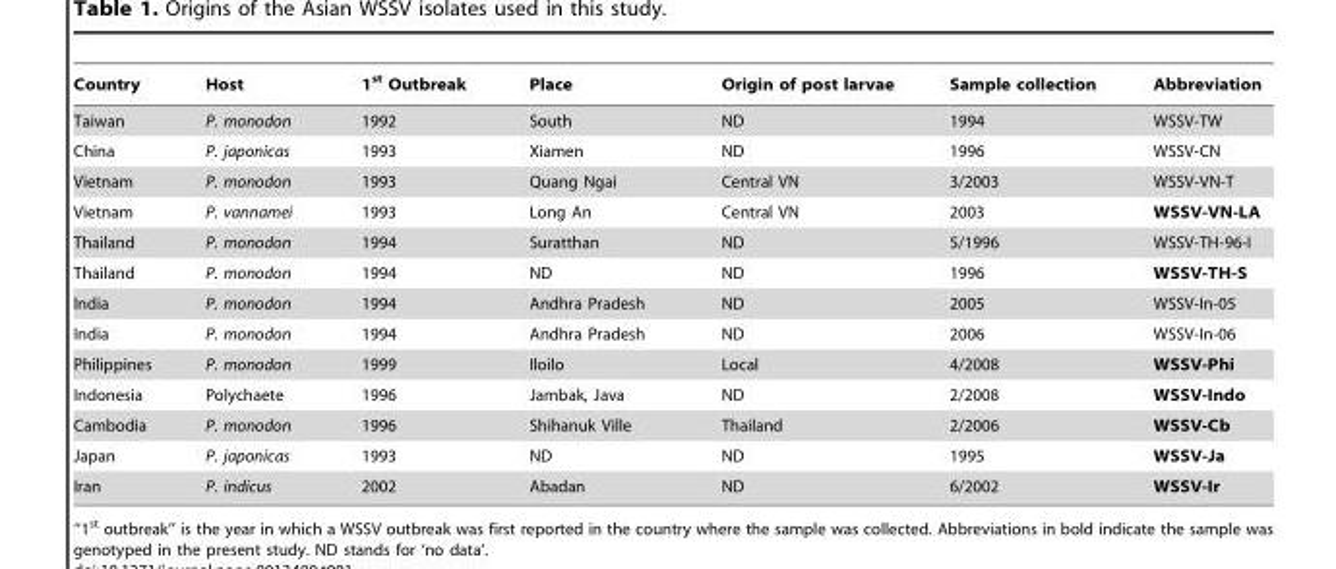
<table><thead><tr><td>Country</td><td>Host</td><td>1<sup>st</sup> Outbreak</td><td>Place</td><td>Origin of post larvae</td><td>Sample collection</td><td>Abbreviation</td></tr></thead><tbody><tr><td>Taiwan</td><td>P. monodon</td><td>1992</td><td>South</td><td>ND</td><td>1994</td><td>WSSV-TW</td></tr><tr><td>China</td><td>P. japonicas</td><td>1993</td><td>Xiamen</td><td>ND</td><td>1996</td><td>WSSV-CN</td></tr><tr><td>Vietnam</td><td>P. monodon</td><td>1993</td><td>Quang Ngai</td><td>Central VN</td><td>3/2003</td><td>WSSV-VN-T</td></tr><tr><td>Vietnam</td><td>P. vannamei</td><td>1993</td><td>Long An</td><td>Central VN</td><td>2003</td><td>WSSV-VN-LA</td></tr><tr><td>Thailand</td><td>P. monodon</td><td>1994</td><td>Suratthan</td><td>ND</td><td>5/1996</td><td>WSSV-TH-96-I</td></tr><tr><td>Thailand</td><td>P. monodon</td><td>1994</td><td>ND</td><td>ND</td><td>1996</td><td>WSSV-TH-S</td></tr><tr><td>India</td><td>P. monodon</td><td>1994</td><td>Andhra Pradesh</td><td>ND</td><td>2005</td><td>WSSV-In-05</td></tr><tr><td>India</td><td>P. monodon</td><td>1994</td><td>Andhra Pradesh</td><td>ND</td><td>2006</td><td>WSSV-In-06</td></tr><tr><td>Philippines</td><td>P. monodon</td><td>1999</td><td>Iloilo</td><td>Local</td><td>4/2008</td><td>WSSV-Phi</td></tr><tr><td>Indonesia</td><td>Polychaete</td><td>1996</td><td>Jambak, Java</td><td>ND</td><td>2/2008</td><td>WSSV-Indo</td></tr><tr><td>Cambodia</td><td>P. monodon</td><td>1996</td><td>Shihanuk Ville</td><td>Thailand</td><td>2/2006</td><td>WSSV-Cb</td></tr><tr><td>Japan</td><td>P. japonicas</td><td>1993</td><td>ND</td><td>ND</td><td>1995</td><td>WSSV-Ja</td></tr><tr><td>Iran</td><td>P. indicus</td><td>2002</td><td>Abadan</td><td>ND</td><td>6/2002</td><td>WSSV-Ir</td></tr></tbody></table>